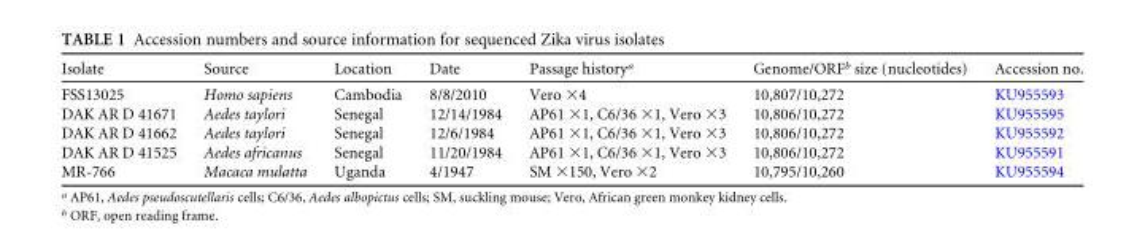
<table><thead><tr><td>Isolate</td><td>Source</td><td>Location</td><td>Date</td><td>Passage history<sup>a</sup></td><td>Genome/ORF<sup>b</sup> size (nucleotides)</td><td>Accession no.</td></tr></thead><tbody><tr><td>FSS13025</td><td>Homo sapiens</td><td>Cambodia</td><td>8/8/2010</td><td>Vero ×4</td><td>10,807/10,272</td><td>KU955593</td></tr><tr><td>DAK AR D 41671</td><td>Aedes taylori</td><td>Senegal</td><td>12/14/1984</td><td>AP61 ×1, C6/36 ×1, Vero ×3</td><td>10,806/10,272</td><td>KU955595</td></tr><tr><td>DAK AR D 41662</td><td>Aedes taylori</td><td>Senegal</td><td>12/6/1984</td><td>AP61 ×1, C6/36 ×1, Vero ×3</td><td>10,806/10,272</td><td>KU955592</td></tr><tr><td>DAK AR D 41525</td><td>Aedes africanus</td><td>Senegal</td><td>11/20/1984</td><td>AP61 ×1, C6/36 ×1, Vero ×3</td><td>10,806/10,272</td><td>KU955591</td></tr><tr><td>MR-766</td><td>Macaca mulatta</td><td>Uganda</td><td>4/1947</td><td>SM ×150, Vero ×2</td><td>10,795/10,260</td><td>KU955594</td></tr></tbody></table>